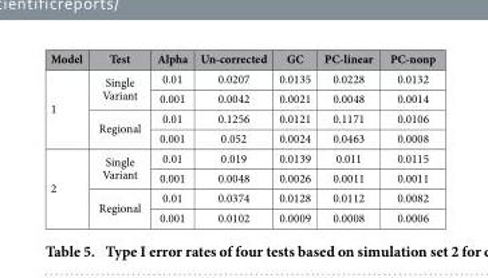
<table><thead><tr><td>Model</td><td>Test</td><td>Alpha</td><td>Un-corrected</td><td>GC</td><td>PC-linear</td><td>PC-nonp</td></tr></thead><tbody><tr><td rowspan="4">1</td><td rowspan="2">Single Variant</td><td>0.01</td><td>0.0207</td><td>0.0135</td><td>0.0228</td><td>0.0132</td></tr><tr><td>0.001</td><td>0.0042</td><td>0.0021</td><td>0.0048</td><td>0.0014</td></tr><tr><td rowspan="2">Regional</td><td>0.01</td><td>0.1256</td><td>0.0121</td><td>0.1171</td><td>0.0106</td></tr><tr><td>0.001</td><td>0.052</td><td>0.0024</td><td>0.0463</td><td>0.0008</td></tr><tr><td rowspan="4">2</td><td rowspan="2">Single Variant</td><td>0.01</td><td>0.019</td><td>0.0139</td><td>0.011</td><td>0.0115</td></tr><tr><td>0.001</td><td>0.0048</td><td>0.0026</td><td>0.0011</td><td>0.0011</td></tr><tr><td rowspan="2">Regional</td><td>0.01</td><td>0.0374</td><td>0.0128</td><td>0.0112</td><td>0.0082</td></tr><tr><td>0.001</td><td>0.0102</td><td>0.0009</td><td>0.0008</td><td>0.0006</td></tr></tbody></table>